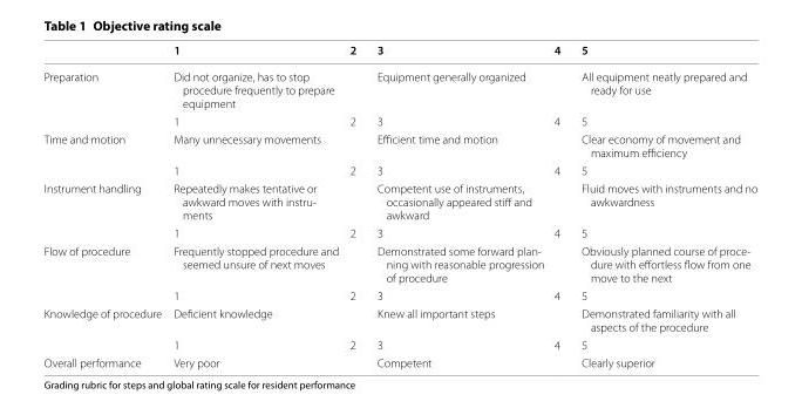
<table><thead><tr><td></td><td>1</td><td>2</td><td>3</td><td>4</td><td>5</td></tr></thead><tbody><tr><td rowspan="2">Preparation</td><td>Did not organize, has to stop procedure frequently to prepare equipment</td><td></td><td>Equipment generally organized</td><td></td><td>All equipment neatly prepared and ready for use</td></tr><tr><td>1</td><td>2</td><td>3</td><td>4</td><td>5</td></tr><tr><td rowspan="2">Time and motion</td><td>Many unnecessary movements</td><td></td><td>Efficient time and motion</td><td></td><td>Clear economy of movement and maximum efficiency</td></tr><tr><td>1</td><td>2</td><td>3</td><td>4</td><td>5</td></tr><tr><td rowspan="2">Instrument handling</td><td>Repeatedly makes tentative or awkward moves with instru- ments</td><td></td><td>Competent use of instruments, occasionally appeared stiff and awkward</td><td></td><td>Fluid moves with instruments and no awkwardness</td></tr><tr><td>1</td><td>2</td><td>3</td><td>4</td><td>5</td></tr><tr><td rowspan="2">Flow of procedure</td><td>Frequently stopped procedure and seemed unsure of next moves</td><td></td><td>Demonstrated some forward plan- ning with reasonable progression of procedure</td><td></td><td>Obviously planned course of proce- dure with effortless flow from one move to the next</td></tr><tr><td>1</td><td>2</td><td>3</td><td>4</td><td>5</td></tr><tr><td rowspan="2">Knowledge of procedure</td><td>Deficient knowledge</td><td></td><td>Knew all important steps</td><td></td><td>Demonstrated familiarity with all aspects of the procedure</td></tr><tr><td>1</td><td>2</td><td>3</td><td>4</td><td>5</td></tr><tr><td>Overall performance</td><td>Very poor</td><td></td><td>Competent</td><td></td><td>Clearly superior</td></tr></tbody></table>